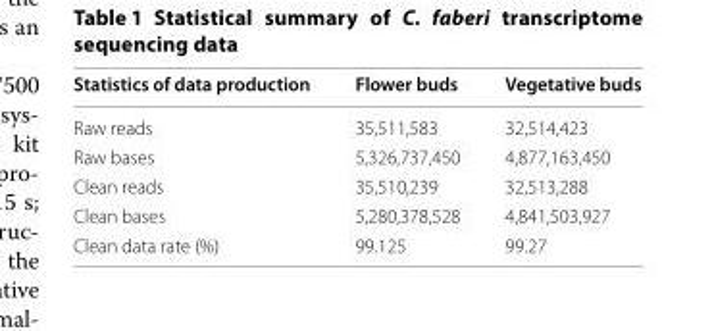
<table><thead><tr><td>Statistics of data production</td><td>Flower buds</td><td>Vegetative buds</td></tr></thead><tbody><tr><td>Raw reads</td><td>35,511,583</td><td>32,514,423</td></tr><tr><td>Raw bases</td><td>5,326,737,450</td><td>4,877,163,450</td></tr><tr><td>Clean reads</td><td>35,510,239</td><td>32,513,288</td></tr><tr><td>Clean bases</td><td>5,280,378,528</td><td>4,841,503,927</td></tr><tr><td>Clean data rate (%)</td><td>99.125</td><td>99.27</td></tr></tbody></table>